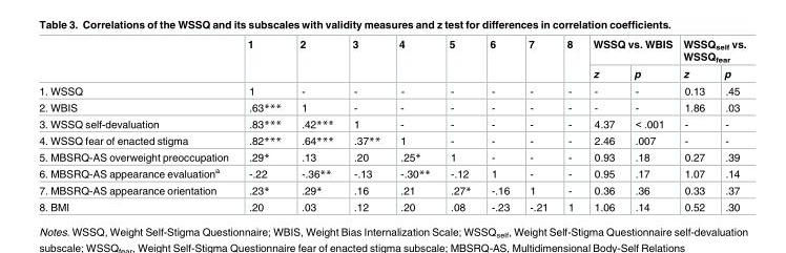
<table><thead><tr><td rowspan="2"></td><td rowspan="2">1</td><td rowspan="2">2</td><td rowspan="2">3</td><td rowspan="2">4</td><td rowspan="2">5</td><td rowspan="2">6</td><td rowspan="2">7</td><td rowspan="2">8</td><td colspan="2">WSSQ vs. WBIS</td><td colspan="2">WSSQ<sub>self</sub> vs. WSSQ<sub>fear</sub></td></tr><tr><td>z</td><td>p</td><td>z</td><td>p</td></tr></thead><tbody><tr><td>1. WSSQ</td><td>1</td><td>-</td><td>-</td><td>-</td><td>-</td><td>-</td><td>-</td><td>-</td><td>-</td><td>-</td><td>0.13</td><td>.45</td></tr><tr><td>2. WBIS</td><td>.63***</td><td>1</td><td>-</td><td>-</td><td>-</td><td>-</td><td>-</td><td>-</td><td>-</td><td>-</td><td>1.86</td><td>.03</td></tr><tr><td>3. WSSQ self-devaluation</td><td>.83***</td><td>.42***</td><td>1</td><td>-</td><td>-</td><td>-</td><td>-</td><td>-</td><td>4.37</td><td>&lt; .001</td><td>-</td><td>-</td></tr><tr><td>4. WSSQ fear of enacted stigma</td><td>.82***</td><td>.64***</td><td>.37**</td><td>1</td><td>-</td><td>-</td><td>-</td><td>-</td><td>2.46</td><td>.007</td><td>-</td><td>-</td></tr><tr><td>5. MBSRQ-AS overweight preoccupation</td><td>.29*</td><td>.13</td><td>.20</td><td>.25*</td><td>1</td><td>-</td><td>-</td><td>-</td><td>0.93</td><td>.18</td><td>0.27</td><td>.39</td></tr><tr><td>6. MBSRQ-AS appearance evaluation<sup>a</sup></td><td>-.22</td><td>-.36**</td><td>-.13</td><td>-.30**</td><td>-.12</td><td>1</td><td>-</td><td>-</td><td>0.95</td><td>.17</td><td>1.07</td><td>.14</td></tr><tr><td>7. MBSRQ-AS appearance orientation</td><td>.23*</td><td>.29*</td><td>.16</td><td>.21</td><td>.27*</td><td>-.16</td><td>1</td><td>-</td><td>0.36</td><td>.36</td><td>0.33</td><td>.37</td></tr><tr><td>8. BMI</td><td>.20</td><td>.03</td><td>.12</td><td>.20</td><td>.08</td><td>-.23</td><td>-.21</td><td>1</td><td>1.06</td><td>.14</td><td>0.52</td><td>.30</td></tr></tbody></table>